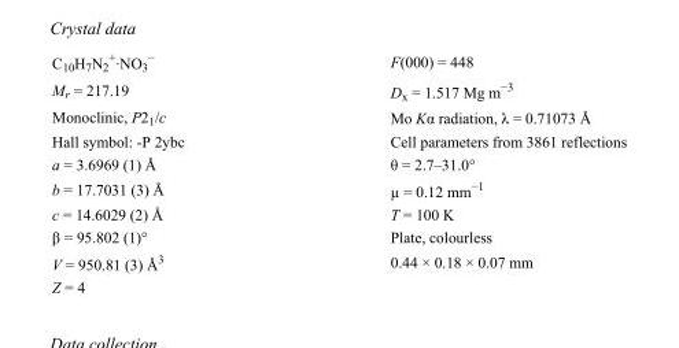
<table><tbody><tr><td>C<sub>10</sub>H<sub>7</sub>N<sub>2</sub> <sup>+</sup>·NO<sub>3</sub> <sup>−</sup></td><td>F(000) = 448</td></tr><tr><td>M<sub>r</sub> = 217.19</td><td>D<sub>x</sub> = 1.517 Mg m<sup>−3</sup></td></tr><tr><td>Monoclinic, P2<sub>1</sub>/c</td><td>Mo Kα radiation, λ = 0.71073 Å</td></tr><tr><td>Hall symbol: -P 2ybc</td><td>Cell parameters from 3861 reflections</td></tr><tr><td>a = 3.6969 (1) Å</td><td>θ = 2.7–31.0°</td></tr><tr><td>b = 17.7031 (3) Å</td><td>µ = 0.12 mm<sup>−1</sup></td></tr><tr><td>c = 14.6029 (2) Å</td><td>T = 100 K</td></tr><tr><td>β = 95.802 (1)°</td><td>Plate, colourless</td></tr><tr><td>V = 950.81 (3) Å<sup>3</sup></td><td>0.44 × 0.18 × 0.07 mm</td></tr><tr><td>Z = 4</td><td></td></tr></tbody></table>